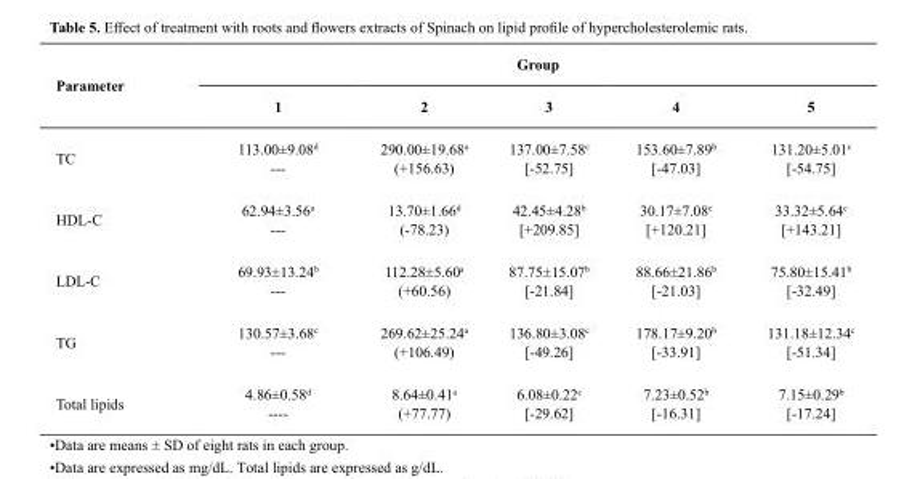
<table><thead><tr><td rowspan="2">Parameter</td><td colspan="5">Group</td></tr><tr><td>1</td><td>2</td><td>3</td><td>4</td><td>5</td></tr></thead><tbody><tr><td>TC</td><td>113.00±9.08<sup>d</sup> ---</td><td>290.00±19.68<sup>a</sup> (+156.63)</td><td>137.00±7.58<sup>c</sup> [-52.75]</td><td>153.60±7.89<sup>b</sup> [-47.03]</td><td>131.20±5.01<sup>c</sup> [-54.75]</td></tr><tr><td>HDL-C</td><td>62.94±3.56<sup>a</sup> ---</td><td>13.70±1.66<sup>d</sup> (-78.23)</td><td>42.45±4.28<sup>b</sup> [+209.85]</td><td>30.17±7.08<sup>c</sup> [+120.21]</td><td>33.32±5.64<sup>c</sup> [+143.21]</td></tr><tr><td>LDL-C</td><td>69.93±13.24<sup>b</sup> ---</td><td>112.28±5.60<sup>a</sup> (+60.56)</td><td>87.75±15.07<sup>b</sup> [-21.84]</td><td>88.66±21.86<sup>b</sup> [-21.03]</td><td>75.80±15.41<sup>b</sup> [-32.49]</td></tr><tr><td>TG</td><td>130.57±3.68<sup>c</sup> ---</td><td>269.62±25.24<sup>a</sup> (+106.49)</td><td>136.80±3.08<sup>c</sup> [-49.26]</td><td>178.17±9.20<sup>b</sup> [-33.91]</td><td>131.18±12.34<sup>c</sup> [-51.34]</td></tr><tr><td>Total lipids</td><td>4.86±0.58<sup>d</sup> ----</td><td>8.64±0.41<sup>a</sup> (+77.77)</td><td>6.08±0.22<sup>c</sup> [-29.62]</td><td>7.23±0.52<sup>b</sup> [-16.31]</td><td>7.15±0.29<sup>b</sup> [-17.24]</td></tr></tbody></table>